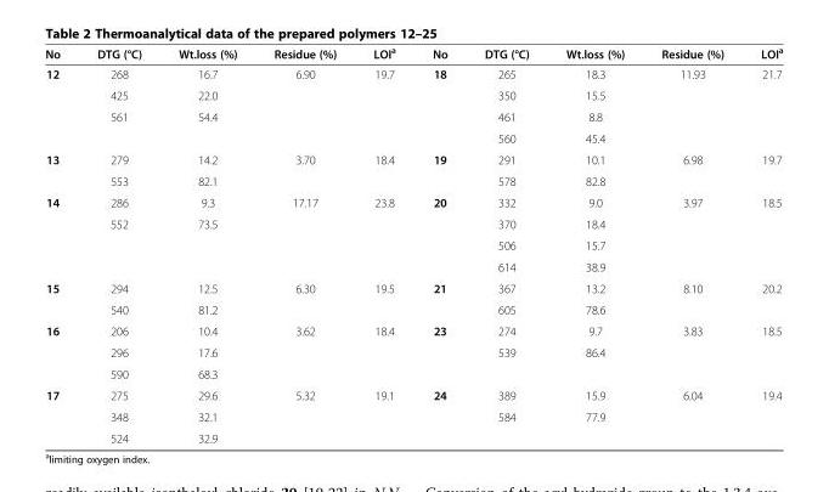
<table><thead><tr><td>No</td><td>DTG (°C)</td><td>Wt.loss (%)</td><td>Residue (%)</td><td>LOI<sup>a</sup></td><td>No</td><td>DTG (°C)</td><td>Wt.loss (%)</td><td>Residue (%)</td><td>LOI<sup>a</sup></td></tr></thead><tbody><tr><td rowspan="4">12</td><td>268</td><td>16.7</td><td rowspan="4">6.90</td><td rowspan="4">19.7</td><td rowspan="4">18</td><td>265</td><td>18.3</td><td rowspan="4">11.93</td><td rowspan="4">21.7</td></tr><tr><td>425</td><td>22.0</td><td>350</td><td>15.5</td></tr><tr><td rowspan="2">561</td><td rowspan="2">54.4</td><td>461</td><td>8.8</td></tr><tr><td>560</td><td>45.4</td></tr><tr><td rowspan="2">13</td><td>279</td><td>14.2</td><td rowspan="2">3.70</td><td rowspan="2">18.4</td><td rowspan="2">19</td><td>291</td><td>10.1</td><td rowspan="2">6.98</td><td rowspan="2">19.7</td></tr><tr><td>553</td><td>82.1</td><td>578</td><td>82.8</td></tr><tr><td rowspan="4">14</td><td>286</td><td>9.3</td><td rowspan="4">17.17</td><td rowspan="4">23.8</td><td rowspan="4">20</td><td>332</td><td>9.0</td><td rowspan="4">3.97</td><td rowspan="4">18.5</td></tr><tr><td rowspan="3">552</td><td rowspan="3">73.5</td><td>370</td><td>18.4</td></tr><tr><td>506</td><td>15.7</td></tr><tr><td>614</td><td>38.9</td></tr><tr><td rowspan="2">15</td><td>294</td><td>12.5</td><td rowspan="2">6.30</td><td rowspan="2">19.5</td><td rowspan="2">21</td><td>367</td><td>13.2</td><td rowspan="2">8.10</td><td rowspan="2">20.2</td></tr><tr><td>540</td><td>81.2</td><td>605</td><td>78.6</td></tr><tr><td rowspan="3">16</td><td>206</td><td>10.4</td><td rowspan="3">3.62</td><td rowspan="3">18.4</td><td rowspan="3">23</td><td>274</td><td>9.7</td><td rowspan="3">3.83</td><td rowspan="3">18.5</td></tr><tr><td>296</td><td>17.6</td><td rowspan="2">539</td><td rowspan="2">86.4</td></tr><tr><td>590</td><td>68.3</td></tr><tr><td rowspan="3">17</td><td>275</td><td>29.6</td><td rowspan="2">5.32</td><td rowspan="2">19.1</td><td>24</td><td>389</td><td>15.9</td><td rowspan="2">6.04</td><td rowspan="2">19.4</td></tr><tr><td>348</td><td>32.1</td><td></td><td>584</td><td>77.9</td></tr><tr><td>524</td><td>32.9</td><td></td><td></td><td></td><td></td><td></td><td></td><td></td></tr></tbody></table>